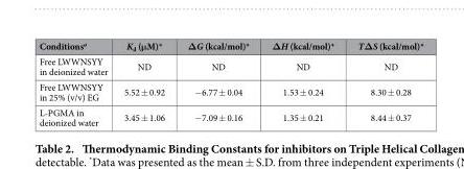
<table><thead><tr><td>Conditions<sup>a</sup></td><td>K<sub>d</sub> (μM)*</td><td>ΔG (kcal/mol)*</td><td>ΔH (kcal/mol)*</td><td>TΔS (kcal/mol)*</td></tr></thead><tbody><tr><td>Free LWWNSYY in deionized water</td><td>ND</td><td>ND</td><td>ND</td><td>ND</td></tr><tr><td>Free LWWNSYY in 25% (v/v) EG</td><td>5.52 ± 0.92</td><td>− 6.77 ± 0.04</td><td>1.53 ± 0.24</td><td>8.30 ± 0.28</td></tr><tr><td>L-PGMA in deionized water</td><td>3.45 ± 1.06</td><td>− 7.09 ± 0.16</td><td>1.35 ± 0.21</td><td>8.44 ± 0.37</td></tr></tbody></table>